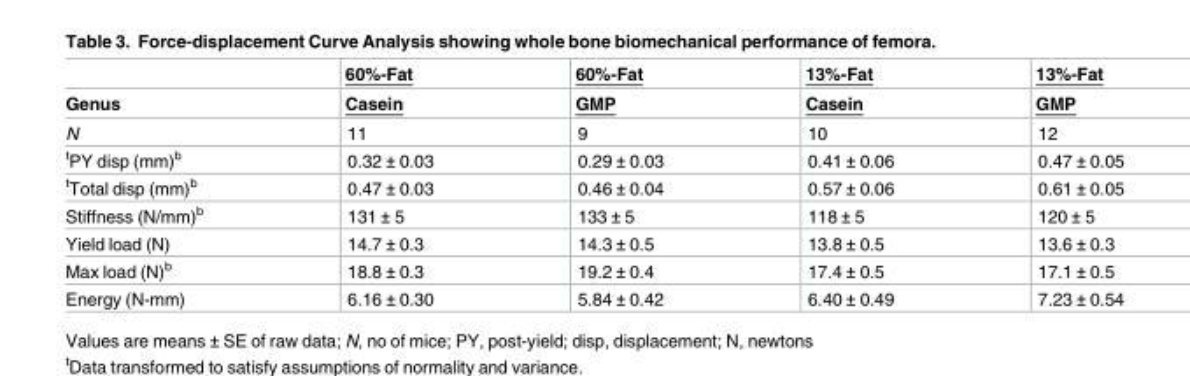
<table><thead><tr><td rowspan="2">Genus</td><td rowspan="2">60%-Fat Casein</td><td rowspan="2">60%-Fat GMP</td><td rowspan="2">13%-Fat Casein</td><td rowspan="2">13%-Fat GMP</td></tr><tr></tr></thead><tbody><tr><td>N</td><td>11</td><td>9</td><td>10</td><td>12</td></tr><tr><td><sup>t</sup>PY disp (mm)<sup>b</sup></td><td>0.32 ± 0.03</td><td>0.29 ± 0.03</td><td>0.41 ± 0.06</td><td>0.47 ± 0.05</td></tr><tr><td><sup>t</sup>Total disp (mm)<sup>b</sup></td><td>0.47 ± 0.03</td><td>0.46 ± 0.04</td><td>0.57 ± 0.06</td><td>0.61 ± 0.05</td></tr><tr><td>Stiffness (N/mm)<sup>b</sup></td><td>131 ± 5</td><td>133 ± 5</td><td>118 ± 5</td><td>120 ± 5</td></tr><tr><td>Yield load (N)</td><td>14.7 ± 0.3</td><td>14.3 ± 0.5</td><td>13.8 ± 0.5</td><td>13.6 ± 0.3</td></tr><tr><td>Max load (N)<sup>b</sup></td><td>18.8 ± 0.3</td><td>19.2 ± 0.4</td><td>17.4 ± 0.5</td><td>17.1 ± 0.5</td></tr><tr><td>Energy (N-mm)</td><td>6.16 ± 0.30</td><td>5.84 ± 0.42</td><td>6.40 ± 0.49</td><td>7.23 ± 0.54</td></tr></tbody></table>